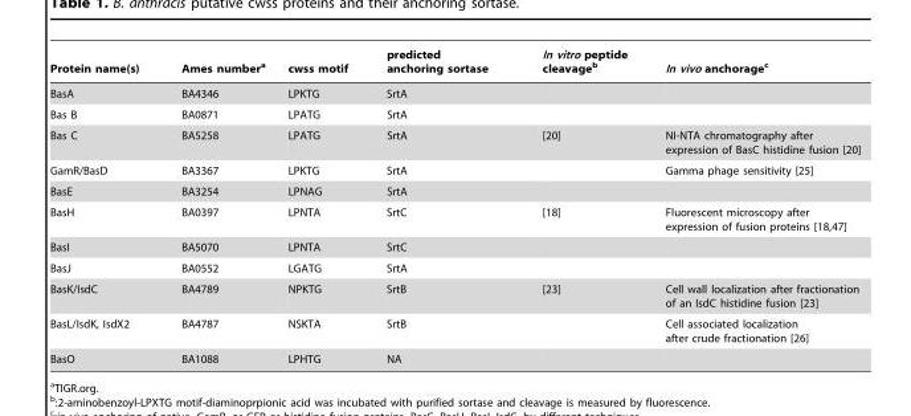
<table><thead><tr><td>Protein name(s)</td><td>Ames number<sup>a</sup></td><td>cwss motif</td><td>predicted anchoring sortase</td><td>In vitro peptide cleavage<sup>b</sup></td><td>In vivo anchorage<sup>c</sup></td></tr></thead><tbody><tr><td>BasA</td><td>BA4346</td><td>LPKTG</td><td>SrtA</td><td></td><td></td></tr><tr><td>Bas B</td><td>BA0871</td><td>LPATG</td><td>SrtA</td><td></td><td></td></tr><tr><td>Bas C</td><td>BA5258</td><td>LPATG</td><td>SrtA</td><td>[20]</td><td>NI-NTA chromatography after expression of BasC histidine fusion [20]</td></tr><tr><td>GamR/BasD</td><td>BA3367</td><td>LPKTG</td><td>SrtA</td><td></td><td>Gamma phage sensitivity [25]</td></tr><tr><td>BasE</td><td>BA3254</td><td>LPNAG</td><td>SrtA</td><td></td><td></td></tr><tr><td>BasH</td><td>BA0397</td><td>LPNTA</td><td>SrtC</td><td>[18]</td><td>Fluorescent microscopy after expression of fusion proteins [18,47]</td></tr><tr><td>BasI</td><td>BA5070</td><td>LPNTA</td><td>SrtC</td><td></td><td></td></tr><tr><td>BasJ</td><td>BA0552</td><td>LGATG</td><td>SrtA</td><td></td><td></td></tr><tr><td>BasK/IsdC</td><td>BA4789</td><td>NPKTG</td><td>SrtB</td><td>[23]</td><td>Cell wall localization after fractionation of an IsdC histidine fusion [23]</td></tr><tr><td>BasL/IsdK, IsdX2</td><td>BA4787</td><td>NSKTA</td><td>SrtB</td><td></td><td>Cell associated localization after crude fractionation [26]</td></tr><tr><td>BasO</td><td>BA1088</td><td>LPHTG</td><td>NA</td><td></td><td></td></tr></tbody></table>